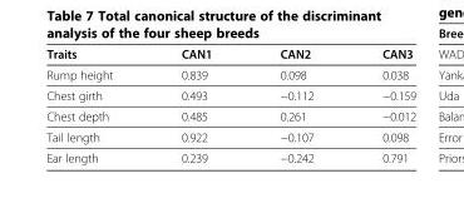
<table><thead><tr><td>Traits</td><td>CAN1</td><td>CAN2</td><td>CAN3</td></tr></thead><tbody><tr><td>Rump height</td><td>0.839</td><td>0.098</td><td>0.038</td></tr><tr><td>Chest girth</td><td>0.493</td><td>−0.112</td><td>−0.159</td></tr><tr><td>Chest depth</td><td>0.485</td><td>0.261</td><td>−0.012</td></tr><tr><td>Tail length</td><td>0.922</td><td>−0.107</td><td>0.098</td></tr><tr><td>Ear length</td><td>0.239</td><td>−0.242</td><td>0.791</td></tr></tbody></table>